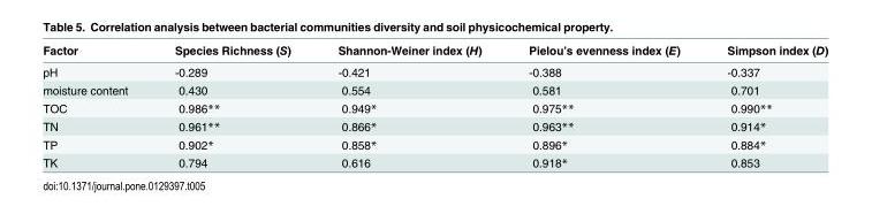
<table><thead><tr><td>Factor</td><td>Species Richness (S)</td><td>Shannon-Weiner index (H)</td><td>Pielou’s evenness index (E)</td><td>Simpson index (D)</td></tr></thead><tbody><tr><td>pH</td><td>-0.289</td><td>-0.421</td><td>-0.388</td><td>-0.337</td></tr><tr><td>moisture content</td><td>0.430</td><td>0.554</td><td>0.581</td><td>0.701</td></tr><tr><td>TOC</td><td>0.986**</td><td>0.949*</td><td>0.975**</td><td>0.990**</td></tr><tr><td>TN</td><td>0.961**</td><td>0.866*</td><td>0.963**</td><td>0.914*</td></tr><tr><td>TP</td><td>0.902*</td><td>0.858*</td><td>0.896*</td><td>0.884*</td></tr><tr><td>TK</td><td>0.794</td><td>0.616</td><td>0.918*</td><td>0.853</td></tr></tbody></table>